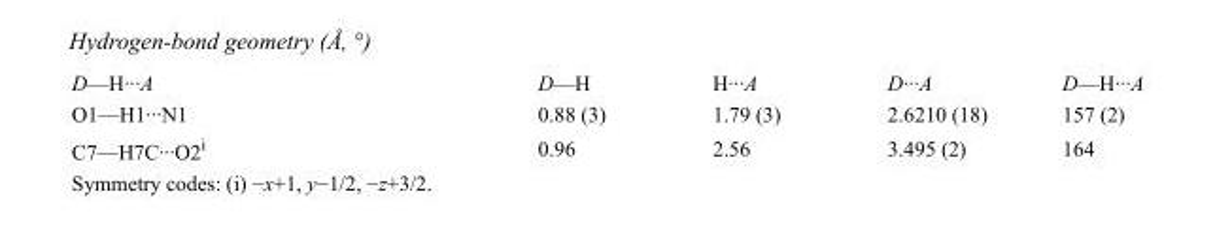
<table><tbody><tr><td>D—H···A</td><td>D—H</td><td>H···A</td><td>D···A</td><td>D—H···A</td></tr><tr><td>O1—H1···N1</td><td>0.88 (3)</td><td>1.79 (3)</td><td>2.6210 (18)</td><td>157 (2)</td></tr><tr><td>C7—H7C···O2<sup>i</sup></td><td>0.96</td><td>2.56</td><td>3.495 (2)</td><td>164</td></tr></tbody></table>